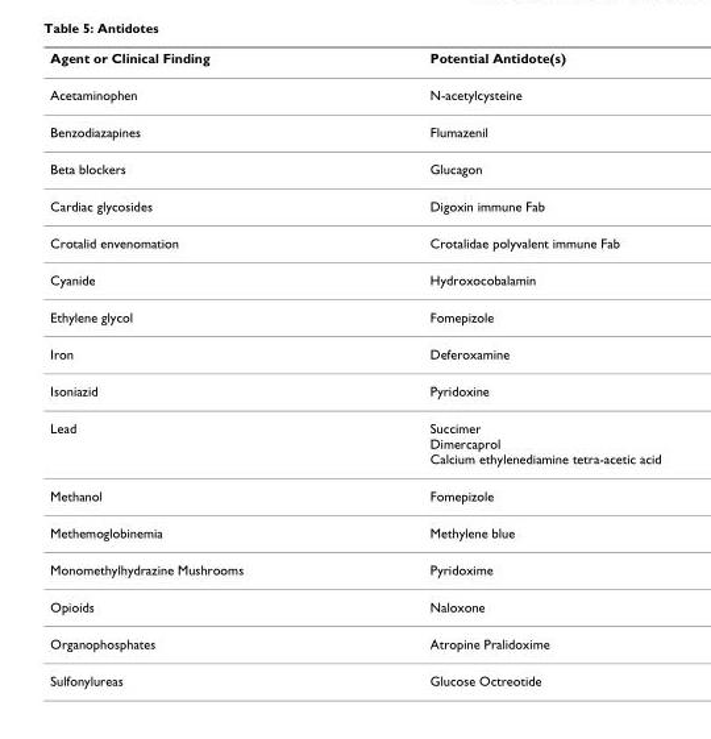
<table><thead><tr><td>Agent or Clinical Finding</td><td>Potential Antidote(s)</td></tr></thead><tbody><tr><td>Acetaminophen</td><td>N-acetylcysteine</td></tr><tr><td>Benzodiazapines</td><td>Flumazenil</td></tr><tr><td>Beta blockers</td><td>Glucagon</td></tr><tr><td>Cardiac glycosides</td><td>Digoxin immune Fab</td></tr><tr><td>Crotalid envenomation</td><td>Crotalidae polyvalent immune Fab</td></tr><tr><td>Cyanide</td><td>Hydroxocobalamin</td></tr><tr><td>Ethylene glycol</td><td>Fomepizole</td></tr><tr><td>Iron</td><td>Deferoxamine</td></tr><tr><td>Isoniazid</td><td>Pyridoxine</td></tr><tr><td>Lead</td><td>Succimer Dimercaprol Calcium ethylenediamine tetra-acetic acid</td></tr><tr><td>Methanol</td><td>Fomepizole</td></tr><tr><td>Methemoglobinemia</td><td>Methylene blue</td></tr><tr><td>Monomethylhydrazine Mushrooms</td><td>Pyridoxime</td></tr><tr><td>Opioids</td><td>Naloxone</td></tr><tr><td>Organophosphates</td><td>Atropine Pralidoxime</td></tr><tr><td>Sulfonylureas</td><td>Glucose Octreotide</td></tr></tbody></table>